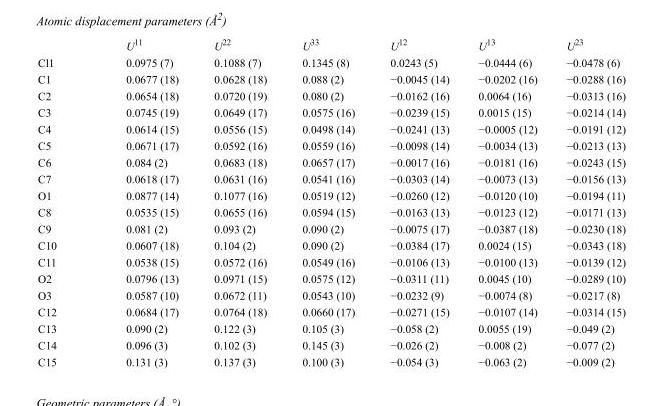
<table><thead><tr><td></td><td>U<sup>11</sup></td><td>U<sup>22</sup></td><td>U<sup>33</sup></td><td>U<sup>12</sup></td><td>U<sup>13</sup></td><td>U<sup>23</sup></td></tr></thead><tbody><tr><td>Cl1</td><td>0.0975 (7)</td><td>0.1088 (7)</td><td>0.1345 (8)</td><td>0.0243 (5)</td><td>−0.0444 (6)</td><td>−0.0478 (6)</td></tr><tr><td>C1</td><td>0.0677 (18)</td><td>0.0628 (18)</td><td>0.088 (2)</td><td>−0.0045 (14)</td><td>−0.0202 (16)</td><td>−0.0288 (16)</td></tr><tr><td>C2</td><td>0.0654 (18)</td><td>0.0720 (19)</td><td>0.080 (2)</td><td>−0.0162 (16)</td><td>0.0064 (16)</td><td>−0.0313 (16)</td></tr><tr><td>C3</td><td>0.0745 (19)</td><td>0.0649 (17)</td><td>0.0575 (16)</td><td>−0.0239 (15)</td><td>0.0015 (15)</td><td>−0.0214 (14)</td></tr><tr><td>C4</td><td>0.0614 (15)</td><td>0.0556 (15)</td><td>0.0498 (14)</td><td>−0.0241 (13)</td><td>−0.0005 (12)</td><td>−0.0191 (12)</td></tr><tr><td>C5</td><td>0.0671 (17)</td><td>0.0592 (16)</td><td>0.0559 (16)</td><td>−0.0098 (14)</td><td>−0.0034 (13)</td><td>−0.0213 (13)</td></tr><tr><td>C6</td><td>0.084 (2)</td><td>0.0683 (18)</td><td>0.0657 (17)</td><td>−0.0017 (16)</td><td>−0.0181 (16)</td><td>−0.0243 (15)</td></tr><tr><td>C7</td><td>0.0618 (17)</td><td>0.0631 (16)</td><td>0.0541 (16)</td><td>−0.0303 (14)</td><td>−0.0073 (13)</td><td>−0.0156 (13)</td></tr><tr><td>O1</td><td>0.0877 (14)</td><td>0.1077 (16)</td><td>0.0519 (12)</td><td>−0.0260 (12)</td><td>−0.0120 (10)</td><td>−0.0194 (11)</td></tr><tr><td>C8</td><td>0.0535 (15)</td><td>0.0655 (16)</td><td>0.0594 (15)</td><td>−0.0163 (13)</td><td>−0.0123 (12)</td><td>−0.0171 (13)</td></tr><tr><td>C9</td><td>0.081 (2)</td><td>0.093 (2)</td><td>0.090 (2)</td><td>−0.0075 (17)</td><td>−0.0387 (18)</td><td>−0.0230 (18)</td></tr><tr><td>C10</td><td>0.0607 (18)</td><td>0.104 (2)</td><td>0.090 (2)</td><td>−0.0384 (17)</td><td>0.0024 (15)</td><td>−0.0343 (18)</td></tr><tr><td>C11</td><td>0.0538 (15)</td><td>0.0572 (16)</td><td>0.0549 (16)</td><td>−0.0106 (13)</td><td>−0.0100 (13)</td><td>−0.0139 (12)</td></tr><tr><td>O2</td><td>0.0796 (13)</td><td>0.0971 (15)</td><td>0.0575 (12)</td><td>−0.0311 (11)</td><td>0.0045 (10)</td><td>−0.0289 (10)</td></tr><tr><td>O3</td><td>0.0587 (10)</td><td>0.0672 (11)</td><td>0.0543 (10)</td><td>−0.0232 (9)</td><td>−0.0074 (8)</td><td>−0.0217 (8)</td></tr><tr><td>C12</td><td>0.0684 (17)</td><td>0.0764 (18)</td><td>0.0660 (17)</td><td>−0.0271 (15)</td><td>−0.0107 (14)</td><td>−0.0314 (15)</td></tr><tr><td>C13</td><td>0.090 (2)</td><td>0.122 (3)</td><td>0.105 (3)</td><td>−0.058 (2)</td><td>0.0055 (19)</td><td>−0.049 (2)</td></tr><tr><td>C14</td><td>0.096 (3)</td><td>0.102 (3)</td><td>0.145 (3)</td><td>−0.026 (2)</td><td>−0.008 (2)</td><td>−0.077 (2)</td></tr><tr><td>C15</td><td>0.131 (3)</td><td>0.137 (3)</td><td>0.100 (3)</td><td>−0.054 (3)</td><td>−0.063 (2)</td><td>−0.009 (2)</td></tr></tbody></table>